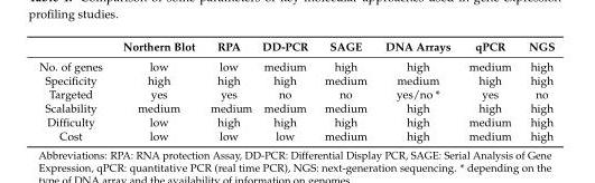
<table><thead><tr><td></td><td>Northern Blot</td><td>RPA</td><td>DD-PCR</td><td>SAGE</td><td>DNA Arrays</td><td>qPCR</td><td>NGS</td></tr></thead><tbody><tr><td>No. of genes</td><td>low</td><td>low</td><td>medium</td><td>high</td><td>high</td><td>medium</td><td>high</td></tr><tr><td>Specificity</td><td>high</td><td>high</td><td>high</td><td>medium</td><td>medium</td><td>high</td><td>high</td></tr><tr><td>Targeted</td><td>yes</td><td>yes</td><td>no</td><td>no</td><td>yes/no *</td><td>yes</td><td>no</td></tr><tr><td>Scalability</td><td>medium</td><td>medium</td><td>medium</td><td>medium</td><td>high</td><td>high</td><td>high</td></tr><tr><td>Difficulty</td><td>low</td><td>high</td><td>high</td><td>high</td><td>high</td><td>medium</td><td>high</td></tr><tr><td>Cost</td><td>low</td><td>low</td><td>low</td><td>medium</td><td>high</td><td>medium</td><td>high</td></tr></tbody></table>